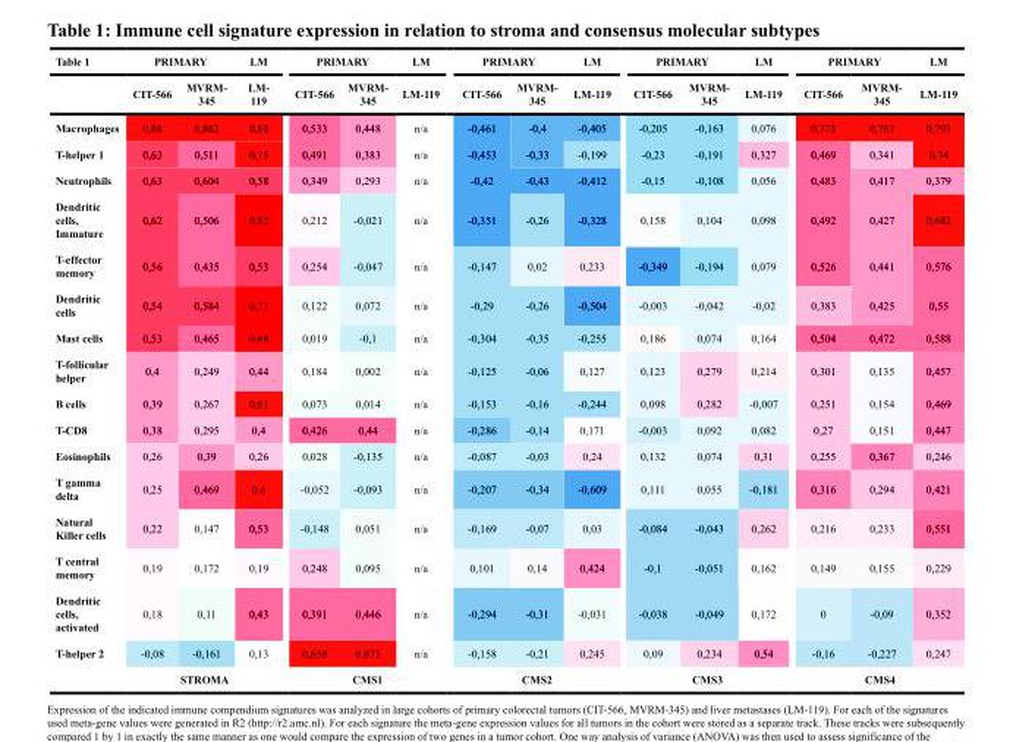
<table><thead><tr><td rowspan="2">Table 1</td><td colspan="2">PRIMARY</td><td rowspan="2">LM LM- 119</td><td colspan="2">PRIMARY</td><td rowspan="2">LM LM-119</td><td colspan="2">PRIMARY</td><td rowspan="2">LM LM-119</td><td colspan="2">PRIMARY</td><td rowspan="2">LM LM-119</td><td colspan="2">PRIMARY</td><td rowspan="2">LM LM-119</td></tr><tr><td>CIT-566</td><td>MVRM- 345</td><td>CIT-566</td><td>MVRM- 345</td><td>CIT-566</td><td>MVRM- 345</td><td>CIT-566</td><td>MVRM- 345</td><td>CIT-566</td><td>MVRM- 345</td></tr></thead><tbody><tr><td>Macrophages</td><td>0,88</td><td>0,862</td><td>0,88</td><td>0,533</td><td>0,448</td><td>n/a</td><td>-0,461</td><td>-0,4</td><td>-0,405</td><td>-0,205</td><td>-0,163</td><td>0,076</td><td>0,775</td><td>0,767</td><td>0,793</td></tr><tr><td>T-helper 1</td><td>0,63</td><td>0,511</td><td>0,75</td><td>0,491</td><td>0,383</td><td>n/a</td><td>-0,453</td><td>-0,33</td><td>-0,199</td><td>-0,23</td><td>-0,191</td><td>0,327</td><td>0,469</td><td>0,341</td><td>0,74</td></tr><tr><td>Neutrophils</td><td>0,63</td><td>0,604</td><td>0,58</td><td>0,349</td><td>0,293</td><td>n/a</td><td>-0,42</td><td>-0,43</td><td>-0,412</td><td>-0,15</td><td>-0,108</td><td>0,056</td><td>0,483</td><td>0,417</td><td>0,379</td></tr><tr><td>Dendritic cells, Immature</td><td>0,62</td><td>0,506</td><td>0,82</td><td>0,212</td><td>-0,021</td><td>n/a</td><td>-0,351</td><td>-0,26</td><td>-0,328</td><td>0,158</td><td>0,104</td><td>0,098</td><td>0,492</td><td>0,427</td><td>0,682</td></tr><tr><td>T-effector memory</td><td>0,56</td><td>0,435</td><td>0,53</td><td>0,254</td><td>-0,047</td><td>n/a</td><td>-0,147</td><td>0,02</td><td>0,233</td><td>-0,349</td><td>-0,194</td><td>0,079</td><td>0,526</td><td>0,441</td><td>0,576</td></tr><tr><td>Dendritic cells</td><td>0,54</td><td>0,584</td><td>0,71</td><td>0,122</td><td>0,072</td><td>n/a</td><td>-0,29</td><td>-0,26</td><td>-0,504</td><td>-0,003</td><td>-0,042</td><td>-0,02</td><td>0,383</td><td>0,425</td><td>0,55</td></tr><tr><td>Mast cells</td><td>0,53</td><td>0,465</td><td>0,68</td><td>0,019</td><td>-0,1</td><td>n/a</td><td>-0,304</td><td>-0,35</td><td>-0,255</td><td>0,186</td><td>0,074</td><td>0,164</td><td>0,504</td><td>0,472</td><td>0,588</td></tr><tr><td>T-follicular helper</td><td>0,4</td><td>0,249</td><td>0,44</td><td>0,184</td><td>0,002</td><td>n/a</td><td>-0,125</td><td>-0,06</td><td>0,127</td><td>0,123</td><td>0,279</td><td>0,214</td><td>0,301</td><td>0,135</td><td>0,457</td></tr><tr><td>B cells</td><td>0,39</td><td>0,267</td><td>0,61</td><td>0,073</td><td>0,014</td><td>n/a</td><td>-0,153</td><td>-0,16</td><td>-0,244</td><td>0,098</td><td>0,282</td><td>-0,007</td><td>0,251</td><td>0,154</td><td>0,469</td></tr><tr><td>T-CD8</td><td>0,38</td><td>0,295</td><td>0,4</td><td>0,426</td><td>0,44</td><td>n/a</td><td>-0,286</td><td>-0,14</td><td>0,171</td><td>-0,003</td><td>0,092</td><td>0,082</td><td>0,27</td><td>0,151</td><td>0,447</td></tr><tr><td>Eosinophils</td><td>0,26</td><td>0,39</td><td>0,26</td><td>0,028</td><td>-0,135</td><td>n/a</td><td>-0,087</td><td>-0,03</td><td>0,24</td><td>0,132</td><td>0,074</td><td>0,31</td><td>0,255</td><td>0,367</td><td>0,246</td></tr><tr><td>T gamma delta</td><td>0,25</td><td>0,469</td><td>0,6</td><td>-0,052</td><td>-0,093</td><td>n/a</td><td>-0,207</td><td>-0,34</td><td>-0,609</td><td>0,111</td><td>0,055</td><td>-0,181</td><td>0,316</td><td>0,294</td><td>0,421</td></tr><tr><td>Natural Killer cells</td><td>0,22</td><td>0,147</td><td>0,53</td><td>-0,148</td><td>0,051</td><td>n/a</td><td>-0,169</td><td>-0,07</td><td>0,03</td><td>-0,084</td><td>-0,043</td><td>0,262</td><td>0,216</td><td>0,233</td><td>0,551</td></tr><tr><td>T central memory</td><td>0,19</td><td>0,172</td><td>0,19</td><td>0,248</td><td>0,095</td><td>n/a</td><td>0,101</td><td>0,14</td><td>0,424</td><td>-0,1</td><td>-0,051</td><td>0,162</td><td>0,149</td><td>0,155</td><td>0,229</td></tr><tr><td>Dendritic cells, activated</td><td>0,18</td><td>0,11</td><td>0,43</td><td>0,391</td><td>0,446</td><td>n/a</td><td>-0,294</td><td>-0,31</td><td>-0,031</td><td>-0,038</td><td>-0,049</td><td>0,172</td><td>0</td><td>-0,09</td><td>0,352</td></tr><tr><td rowspan="2">T-helper 2</td><td>-0,08</td><td>-0,161</td><td>0,13</td><td>0,658</td><td>0,673</td><td>n/a</td><td>-0,158</td><td>-0,21</td><td>0,245</td><td>0,09</td><td>0,234</td><td>0,54</td><td>-0,16</td><td>-0,227</td><td>0,247</td></tr><tr><td colspan="3">STROMA</td><td colspan="3">CMS1</td><td colspan="3">CMS2</td><td colspan="3">CMS3</td><td colspan="3">CMS4</td></tr></tbody></table>